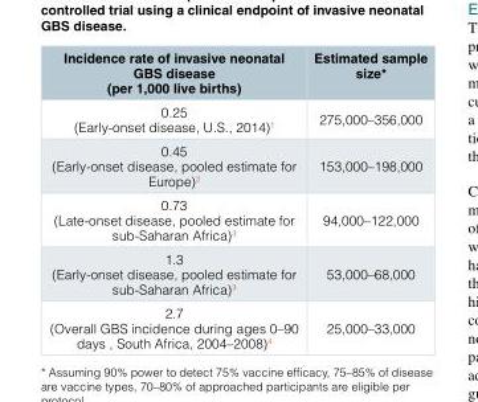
<table><thead><tr><td>Incidence rate of invasive neonatal GBS disease (per 1,000 live births)</td><td>Estimated sample size*</td></tr></thead><tbody><tr><td>0.25 (Early-onset disease, U.S., 2014)<sup>1</sup></td><td>275,000–356,000</td></tr><tr><td>0.45 (Early-onset disease, pooled estimate for Europe)<sup>2</sup></td><td>153,000–198,000</td></tr><tr><td>0.73 (Late-onset disease, pooled estimate for sub-Saharan Africa)<sup>3</sup></td><td>94,000–122,000</td></tr><tr><td>1.3 (Early-onset disease, pooled estimate for sub-Saharan Africa)<sup>3</sup></td><td>53,000–68,000</td></tr><tr><td>2.7 (Overall GBS incidence during ages 0–90 days , South Africa, 2004–2008)<sup>4</sup></td><td>25,000–33,000</td></tr></tbody></table>